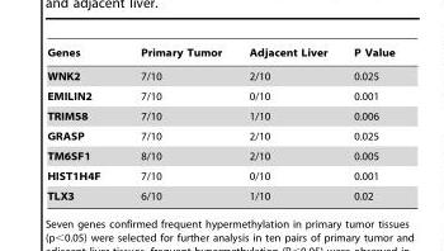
<table><thead><tr><td>Genes</td><td>Primary Tumor</td><td>Adjacent Liver</td><td>P Value</td></tr></thead><tbody><tr><td>WNK2</td><td>7/10</td><td>2/10</td><td>0.025</td></tr><tr><td>EMILIN2</td><td>7/10</td><td>0/10</td><td>0.001</td></tr><tr><td>TRIM58</td><td>7/10</td><td>1/10</td><td>0.006</td></tr><tr><td>GRASP</td><td>7/10</td><td>2/10</td><td>0.025</td></tr><tr><td>TM6SF1</td><td>8/10</td><td>2/10</td><td>0.005</td></tr><tr><td>HIST1H4F</td><td>7/10</td><td>0/10</td><td>0.001</td></tr><tr><td>TLX3</td><td>6/10</td><td>1/10</td><td>0.02</td></tr></tbody></table>